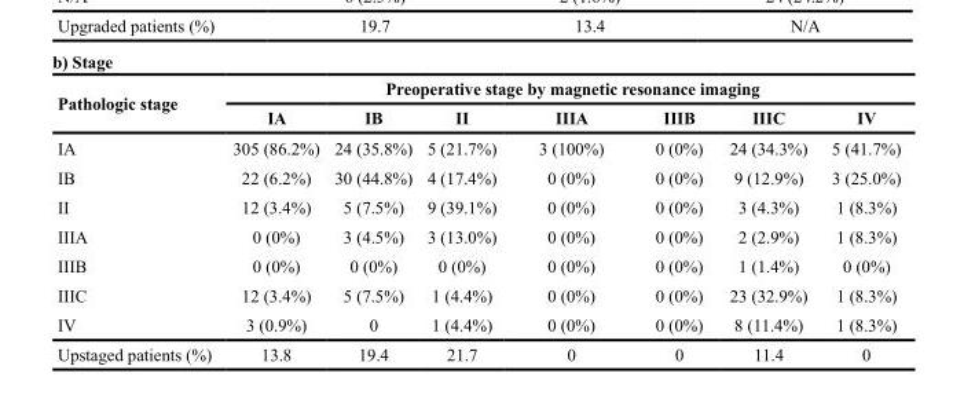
<table><thead><tr><td colspan="8">b) Stage</td></tr><tr><td rowspan="2">Pathologic stage</td><td colspan="7">Preoperative stage by magnetic resonance imaging</td></tr><tr><td>IA</td><td>IB</td><td>II</td><td>IIIA</td><td>IIIB</td><td>IIIC</td><td>IV</td></tr></thead><tbody><tr><td>IA</td><td>305 (86.2%)</td><td>24 (35.8%)</td><td>5 (21.7%)</td><td>3 (100%)</td><td>0 (0%)</td><td>24 (34.3%)</td><td>5 (41.7%)</td></tr><tr><td>IB</td><td>22 (6.2%)</td><td>30 (44.8%)</td><td>4 (17.4%)</td><td>0 (0%)</td><td>0 (0%)</td><td>9 (12.9%)</td><td>3 (25.0%)</td></tr><tr><td>II</td><td>12 (3.4%)</td><td>5 (7.5%)</td><td>9 (39.1%)</td><td>0 (0%)</td><td>0 (0%)</td><td>3 (4.3%)</td><td>1 (8.3%)</td></tr><tr><td>IIIA</td><td>0 (0%)</td><td>3 (4.5%)</td><td>3 (13.0%)</td><td>0 (0%)</td><td>0 (0%)</td><td>2 (2.9%)</td><td>1 (8.3%)</td></tr><tr><td>IIIB</td><td>0 (0%)</td><td>0 (0%)</td><td>0 (0%)</td><td>0 (0%)</td><td>0 (0%)</td><td>1 (1.4%)</td><td>0 (0%)</td></tr><tr><td>IIIC</td><td>12 (3.4%)</td><td>5 (7.5%)</td><td>1 (4.4%)</td><td>0 (0%)</td><td>0 (0%)</td><td>23 (32.9%)</td><td>1 (8.3%)</td></tr><tr><td>IV</td><td>3 (0.9%)</td><td>0</td><td>1 (4.4%)</td><td>0 (0%)</td><td>0 (0%)</td><td>8 (11.4%)</td><td>1 (8.3%)</td></tr><tr><td>Upstaged patients (%)</td><td>13.8</td><td>19.4</td><td>21.7</td><td>0</td><td>0</td><td>11.4</td><td>0</td></tr></tbody></table>